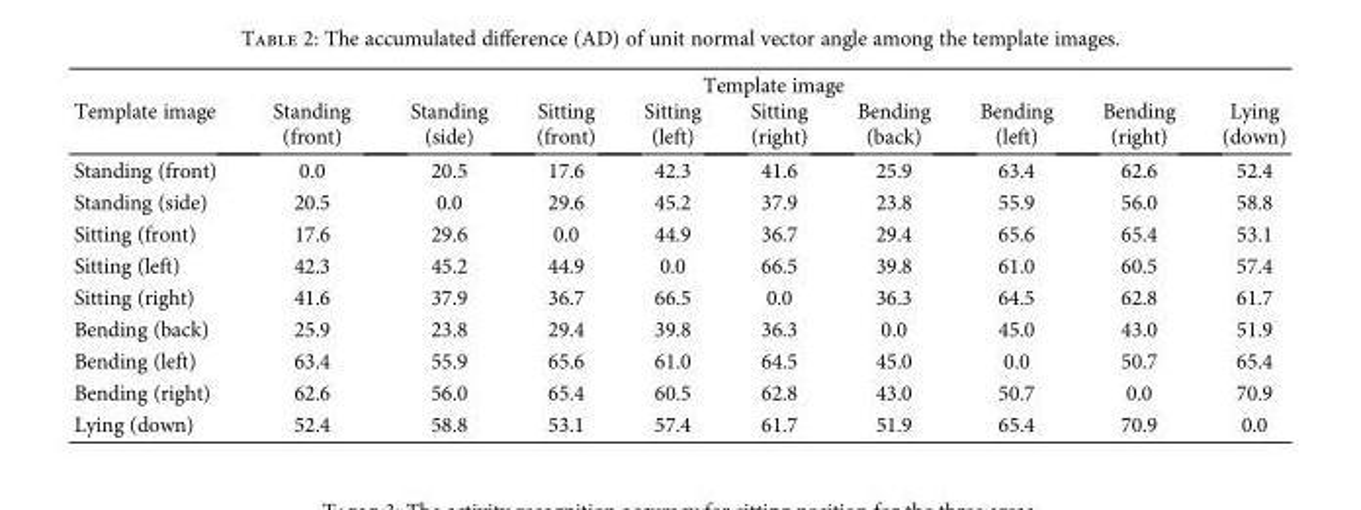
<table><thead><tr><td rowspan="2">Template image</td><td colspan="9">Template image</td></tr><tr><td>Standing (front)</td><td>Standing (side)</td><td>Sitting (front)</td><td>Sitting (left)</td><td>Sitting (right)</td><td>Bending (back)</td><td>Bending (left)</td><td>Bending (right)</td><td>Lying (down)</td></tr></thead><tbody><tr><td>Standing (front)</td><td>0.0</td><td>20.5</td><td>17.6</td><td>42.3</td><td>41.6</td><td>25.9</td><td>63.4</td><td>62.6</td><td>52.4</td></tr><tr><td>Standing (side)</td><td>20.5</td><td>0.0</td><td>29.6</td><td>45.2</td><td>37.9</td><td>23.8</td><td>55.9</td><td>56.0</td><td>58.8</td></tr><tr><td>Sitting (front)</td><td>17.6</td><td>29.6</td><td>0.0</td><td>44.9</td><td>36.7</td><td>29.4</td><td>65.6</td><td>65.4</td><td>53.1</td></tr><tr><td>Sitting (left)</td><td>42.3</td><td>45.2</td><td>44.9</td><td>0.0</td><td>66.5</td><td>39.8</td><td>61.0</td><td>60.5</td><td>57.4</td></tr><tr><td>Sitting (right)</td><td>41.6</td><td>37.9</td><td>36.7</td><td>66.5</td><td>0.0</td><td>36.3</td><td>64.5</td><td>62.8</td><td>61.7</td></tr><tr><td>Bending (back)</td><td>25.9</td><td>23.8</td><td>29.4</td><td>39.8</td><td>36.3</td><td>0.0</td><td>45.0</td><td>43.0</td><td>51.9</td></tr><tr><td>Bending (left)</td><td>63.4</td><td>55.9</td><td>65.6</td><td>61.0</td><td>64.5</td><td>45.0</td><td>0.0</td><td>50.7</td><td>65.4</td></tr><tr><td>Bending (right)</td><td>62.6</td><td>56.0</td><td>65.4</td><td>60.5</td><td>62.8</td><td>43.0</td><td>50.7</td><td>0.0</td><td>70.9</td></tr><tr><td>Lying (down)</td><td>52.4</td><td>58.8</td><td>53.1</td><td>57.4</td><td>61.7</td><td>51.9</td><td>65.4</td><td>70.9</td><td>0.0</td></tr></tbody></table>